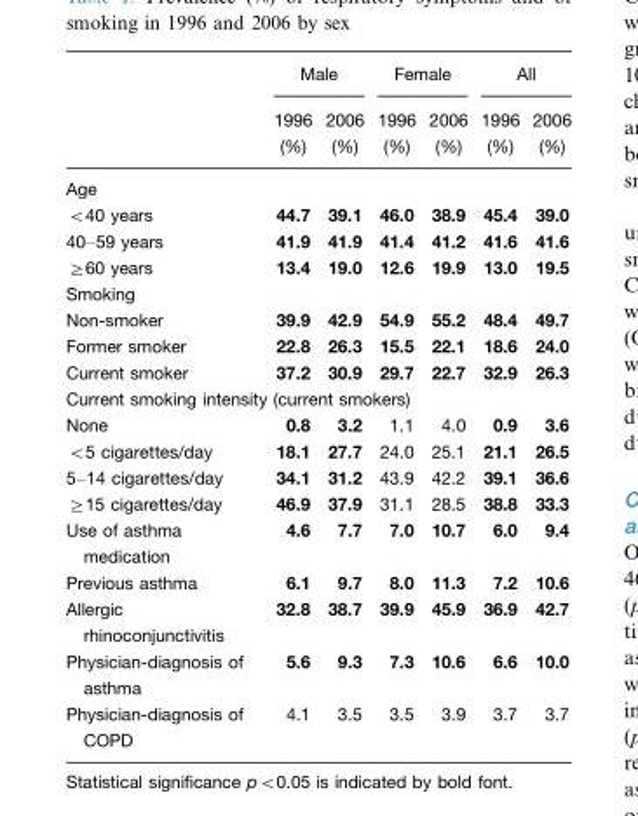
<table><thead><tr><td rowspan="2"></td><td colspan="2">Male</td><td colspan="2">Female</td><td colspan="2">All</td></tr><tr><td>1996 (%)</td><td>2006 (%)</td><td>1996 (%)</td><td>2006 (%)</td><td>1996 (%)</td><td>2006 (%)</td></tr></thead><tbody><tr><td colspan="7">Age</td></tr><tr><td>&lt;40 years</td><td>44.7</td><td>39.1</td><td>46.0</td><td>38.9</td><td>45.4</td><td>39.0</td></tr><tr><td>40–59 years</td><td>41.9</td><td>41.9</td><td>41.4</td><td>41.2</td><td>41.6</td><td>41.6</td></tr><tr><td>≥60 years</td><td>13.4</td><td>19.0</td><td>12.6</td><td>19.9</td><td>13.0</td><td>19.5</td></tr><tr><td colspan="7">Smoking</td></tr><tr><td>Non-smoker</td><td>39.9</td><td>42.9</td><td>54.9</td><td>55.2</td><td>48.4</td><td>49.7</td></tr><tr><td>Former smoker</td><td>22.8</td><td>26.3</td><td>15.5</td><td>22.1</td><td>18.6</td><td>24.0</td></tr><tr><td>Current smoker</td><td>37.2</td><td>30.9</td><td>29.7</td><td>22.7</td><td>32.9</td><td>26.3</td></tr><tr><td colspan="7">Current smoking intensity (current smokers)</td></tr><tr><td>None</td><td>0.8</td><td>3.2</td><td>1.1</td><td>4.0</td><td>0.9</td><td>3.6</td></tr><tr><td>&lt;5 cigarettes/day</td><td>18.1</td><td>27.7</td><td>24.0</td><td>25.1</td><td>21.1</td><td>26.5</td></tr><tr><td>5–14 cigarettes/day</td><td>34.1</td><td>31.2</td><td>43.9</td><td>42.2</td><td>39.1</td><td>36.6</td></tr><tr><td>≥15 cigarettes/day</td><td>46.9</td><td>37.9</td><td>31.1</td><td>28.5</td><td>38.8</td><td>33.3</td></tr><tr><td>Use of asthma medication</td><td>4.6</td><td>7.7</td><td>7.0</td><td>10.7</td><td>6.0</td><td>9.4</td></tr><tr><td>Previous asthma</td><td>6.1</td><td>9.7</td><td>8.0</td><td>11.3</td><td>7.2</td><td>10.6</td></tr><tr><td>Allergic rhinoconjunctivitis</td><td>32.8</td><td>38.7</td><td>39.9</td><td>45.9</td><td>36.9</td><td>42.7</td></tr><tr><td>Physician-diagnosis of asthma</td><td>5.6</td><td>9.3</td><td>7.3</td><td>10.6</td><td>6.6</td><td>10.0</td></tr><tr><td>Physician-diagnosis of COPD</td><td>4.1</td><td>3.5</td><td>3.5</td><td>3.9</td><td>3.7</td><td>3.7</td></tr></tbody></table>